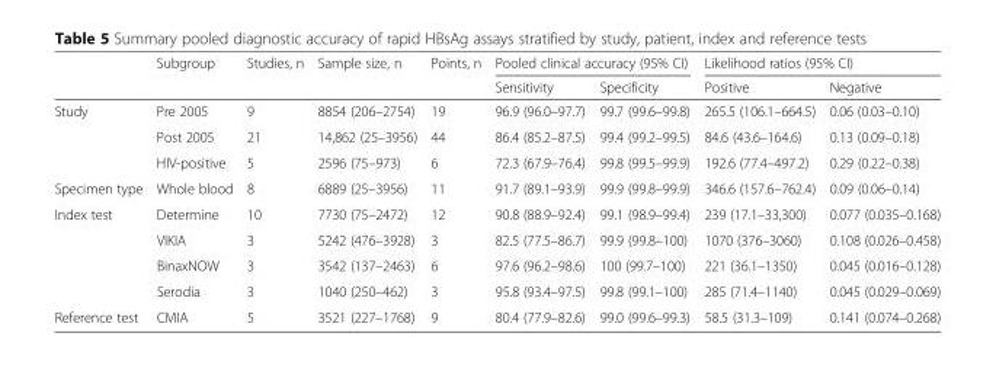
<table><thead><tr><td rowspan="2"></td><td rowspan="2">Subgroup</td><td rowspan="2">Studies, n</td><td rowspan="2">Sample size, n</td><td rowspan="2">Points, n</td><td colspan="2">Pooled clinical accuracy (95% CI)</td><td colspan="2">Likelihood ratios (95% CI)</td></tr><tr><td>Sensitivity</td><td>Specificity</td><td>Positive</td><td>Negative</td></tr></thead><tbody><tr><td rowspan="3">Study</td><td>Pre 2005</td><td>9</td><td>8854 (206–2754)</td><td>19</td><td>96.9 (96.0–97.7)</td><td>99.7 (99.6–99.8)</td><td>265.5 (106.1–664.5)</td><td>0.06 (0.03–0.10)</td></tr><tr><td>Post 2005</td><td>21</td><td>14,862 (25–3956)</td><td>44</td><td>86.4 (85.2–87.5)</td><td>99.4 (99.2–99.5)</td><td>84.6 (43.6–164.6)</td><td>0.13 (0.09–0.18)</td></tr><tr><td>HIV-positive</td><td>5</td><td>2596 (75–973)</td><td>6</td><td>72.3 (67.9–76.4)</td><td>99.8 (99.5–99.9)</td><td>192.6 (77.4–497.2)</td><td>0.29 (0.22–0.38)</td></tr><tr><td>Specimen type</td><td>Whole blood</td><td>8</td><td>6889 (25–3956)</td><td>11</td><td>91.7 (89.1–93.9)</td><td>99.9 (99.8–99.9)</td><td>346.6 (157.6–762.4)</td><td>0.09 (0.06–0.14)</td></tr><tr><td rowspan="4">Index test</td><td>Determine</td><td>10</td><td>7730 (75–2472)</td><td>12</td><td>90.8 (88.9–92.4)</td><td>99.1 (98.9–99.4)</td><td>239 (17.1–33,300)</td><td>0.077 (0.035–0.168)</td></tr><tr><td>VIKIA</td><td>3</td><td>5242 (476–3928)</td><td>3</td><td>82.5 (77.5–86.7)</td><td>99.9 (99.8–100)</td><td>1070 (376–3060)</td><td>0.108 (0.026–0.458)</td></tr><tr><td>BinaxNOW</td><td>3</td><td>3542 (137–2463)</td><td>6</td><td>97.6 (96.2–98.6)</td><td>100 (99.7–100)</td><td>221 (36.1–1350)</td><td>0.045 (0.016–0.128)</td></tr><tr><td>Serodia</td><td>3</td><td>1040 (250–462)</td><td>3</td><td>95.8 (93.4–97.5)</td><td>99.8 (99.1–100)</td><td>285 (71.4–1140)</td><td>0.045 (0.029–0.069)</td></tr><tr><td>Reference test</td><td>CMIA</td><td>5</td><td>3521 (227–1768)</td><td>9</td><td>80.4 (77.9–82.6)</td><td>99.0 (99.6–99.3)</td><td>58.5 (31.3–109)</td><td>0.141 (0.074–0.268)</td></tr></tbody></table>